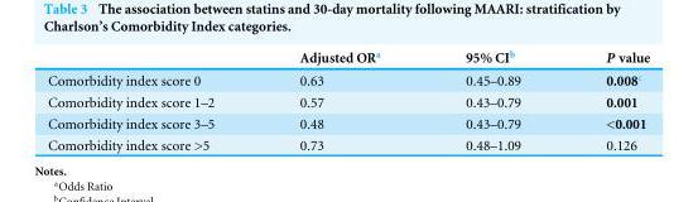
<table><thead><tr><td></td><td>Adjusted OR<sup>a</sup></td><td>95% CI<sup>b</sup></td><td>P value</td></tr></thead><tbody><tr><td>Comorbidity index score 0</td><td>0.63</td><td>0.45–0.89</td><td>0.008<sup>c</sup></td></tr><tr><td>Comorbidity index score 1–2</td><td>0.57</td><td>0.43–0.79</td><td>0.001</td></tr><tr><td>Comorbidity index score 3–5</td><td>0.48</td><td>0.43–0.79</td><td>&lt;0.001</td></tr><tr><td>Comorbidity index score &gt;5</td><td>0.73</td><td>0.48–1.09</td><td>0.126</td></tr></tbody></table>